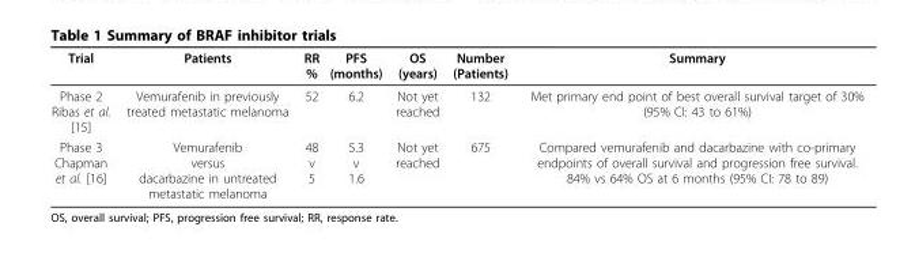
<table><thead><tr><td>Trial</td><td>Patients</td><td>RR %</td><td>PFS (months)</td><td>OS (years)</td><td>Number (Patients)</td><td>Summary</td></tr></thead><tbody><tr><td>Phase 2 Ribas et al. [15]</td><td>Vemurafenib in previously treated metastatic melanoma</td><td>52</td><td>6.2</td><td>Not yet reached</td><td>132</td><td>Met primary end point of best overall survival target of 30% (95% CI: 43 to 61%)</td></tr><tr><td>Phase 3 Chapman et al. [16]</td><td>Vemurafenib versus dacarbazine in untreated metastatic melanoma</td><td>48 v 5</td><td>5.3 v 1.6</td><td>Not yet reached</td><td>675</td><td>Compared vemurafenib and dacarbazine with co-primary endpoints of overall survival and progression free survival. 84% vs 64% OS at 6 months (95% CI: 78 to 89)</td></tr></tbody></table>